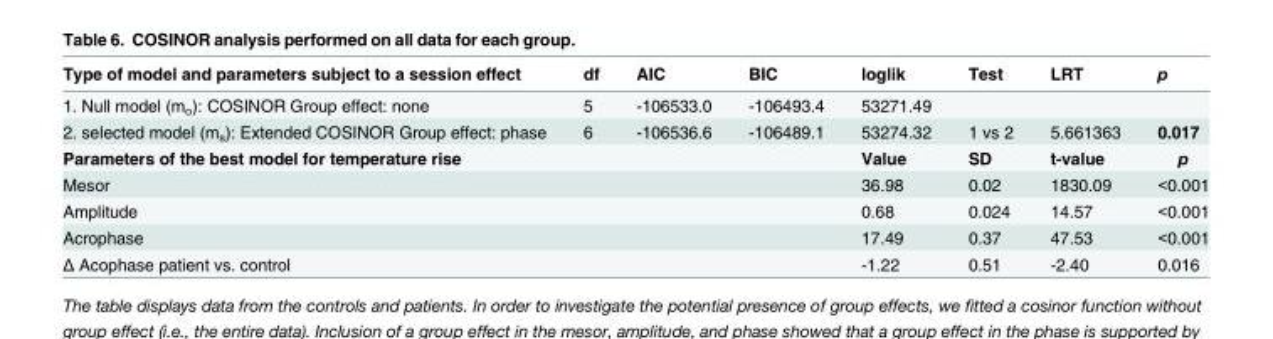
<table><thead><tr><td>Type of model and parameters subject to a session effect</td><td>df</td><td>AIC</td><td>BIC</td><td>loglik</td><td>Test</td><td>LRT</td><td>p</td></tr></thead><tbody><tr><td>1. Null model (m<sub>o</sub>): COSINOR Group effect: none</td><td>5</td><td>-106533.0</td><td>-106493.4</td><td>53271.49</td><td></td><td></td><td></td></tr><tr><td>2. selected model (m<sub>s</sub>): Extended COSINOR Group effect: phase</td><td>6</td><td>-106536.6</td><td>-106489.1</td><td>53274.32</td><td>1 vs 2</td><td>5.661363</td><td>0.017</td></tr><tr><td colspan="4">Parameters of the best model for temperature rise</td><td>Value</td><td>SD</td><td>t-value</td><td>p</td></tr><tr><td colspan="4">Mesor</td><td>36.98</td><td>0.02</td><td>1830.09</td><td>&lt;0.001</td></tr><tr><td colspan="4">Amplitude</td><td>0.68</td><td>0.024</td><td>14.57</td><td>&lt;0.001</td></tr><tr><td colspan="4">Acrophase</td><td>17.49</td><td>0.37</td><td>47.53</td><td>&lt;0.001</td></tr><tr><td colspan="4">Δ Acophase patient vs. control</td><td>-1.22</td><td>0.51</td><td>-2.40</td><td>0.016</td></tr></tbody></table>